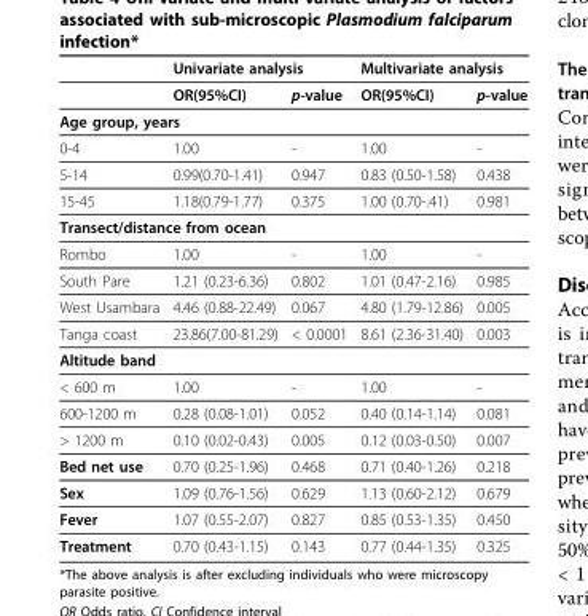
<table><thead><tr><td rowspan="2"></td><td colspan="2">Univariate analysis</td><td colspan="2">Multivariate analysis</td></tr><tr><td>OR(95%CI)</td><td>p-value</td><td>OR(95%CI)</td><td>p-value</td></tr></thead><tbody><tr><td colspan="5">Age group, years</td></tr><tr><td>0-4</td><td>1.00</td><td>-</td><td>1.00</td><td>-</td></tr><tr><td>5-14</td><td>0.99(0.70-1.41)</td><td>0.947</td><td>0.83 (0.50-1.58)</td><td>0.438</td></tr><tr><td>15-45</td><td>1.18(0.79-1.77)</td><td>0.375</td><td>1.00 (0.70-.41)</td><td>0.981</td></tr><tr><td colspan="5">Transect/distance from ocean</td></tr><tr><td>Rombo</td><td>1.00</td><td>-</td><td>1.00</td><td>-</td></tr><tr><td>South Pare</td><td>1.21 (0.23-6.36)</td><td>0.802</td><td>1.01 (0.47-2.16)</td><td>0.985</td></tr><tr><td>West Usambara</td><td>4.46 (0.88-22.49)</td><td>0.067</td><td>4.80 (1.79-12.86)</td><td>0.005</td></tr><tr><td>Tanga coast</td><td>23.86(7.00-81.29)</td><td>&lt; 0.0001</td><td>8.61 (2.36-31.40)</td><td>0.003</td></tr><tr><td colspan="5">Altitude band</td></tr><tr><td>&lt; 600 m</td><td>1.00</td><td>-</td><td>1.00</td><td>-</td></tr><tr><td>600-1200 m</td><td>0.28 (0.08-1.01)</td><td>0.052</td><td>0.40 (0.14-1.14)</td><td>0.081</td></tr><tr><td>&gt; 1200 m</td><td>0.10 (0.02-0.43)</td><td>0.005</td><td>0.12 (0.03-0.50)</td><td>0.007</td></tr><tr><td>Bed net use</td><td>0.70 (0.25-1.96)</td><td>0.468</td><td>0.71 (0.40-1.26)</td><td>0.218</td></tr><tr><td>Sex</td><td>1.09 (0.76-1.56)</td><td>0.629</td><td>1.13 (0.60-2.12)</td><td>0.679</td></tr><tr><td>Fever</td><td>1.07 (0.55-2.07)</td><td>0.827</td><td>0.85 (0.53-1.35)</td><td>0.450</td></tr><tr><td>Treatment</td><td>0.70 (0.43-1.15)</td><td>0.143</td><td>0.77 (0.44-1.35)</td><td>0.325</td></tr></tbody></table>